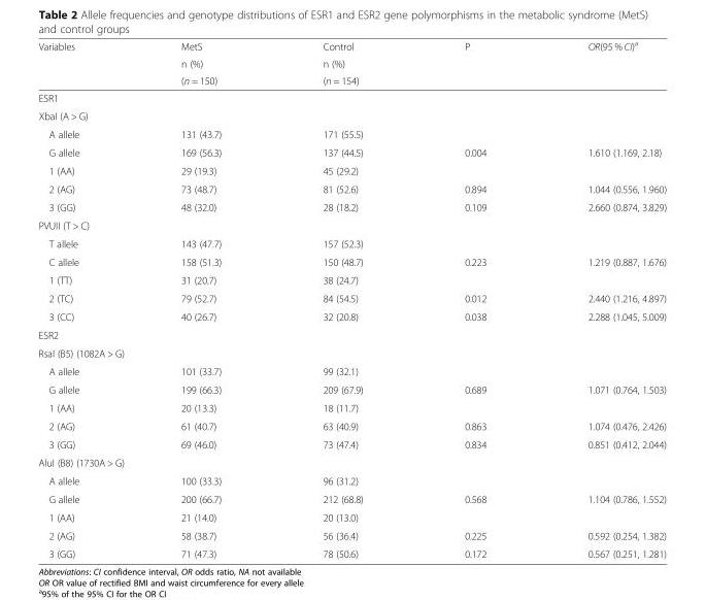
<table><thead><tr><td rowspan="3">Variables</td><td rowspan="3">MetS n (%) (n = 150)</td><td rowspan="3">Control n (%) (n = 154)</td><td rowspan="3">P</td><td rowspan="3">OR(95 % CI)<sup>a</sup></td></tr><tr></tr><tr></tr></thead><tbody><tr><td colspan="5">ESR1</td></tr><tr><td colspan="5">XbaI (A &gt; G)</td></tr><tr><td>A allele</td><td>131 (43.7)</td><td>171 (55.5)</td><td></td><td></td></tr><tr><td>G allele</td><td>169 (56.3)</td><td>137 (44.5)</td><td>0.004</td><td>1.610 (1.169, 2.18)</td></tr><tr><td>1 (AA)</td><td>29 (19.3)</td><td>45 (29.2)</td><td></td><td></td></tr><tr><td>2 (AG)</td><td>73 (48.7)</td><td>81 (52.6)</td><td>0.894</td><td>1.044 (0.556, 1.960)</td></tr><tr><td>3 (GG)</td><td>48 (32.0)</td><td>28 (18.2)</td><td>0.109</td><td>2.660 (0.874, 3.829)</td></tr><tr><td colspan="5">PVUII (T &gt; C)</td></tr><tr><td>T allele</td><td>143 (47.7)</td><td>157 (52.3)</td><td></td><td></td></tr><tr><td>C allele</td><td>158 (51.3)</td><td>150 (48.7)</td><td>0.223</td><td>1.219 (0.887, 1.676)</td></tr><tr><td>1 (TT)</td><td>31 (20.7)</td><td>38 (24.7)</td><td></td><td></td></tr><tr><td>2 (TC)</td><td>79 (52.7)</td><td>84 (54.5)</td><td>0.012</td><td>2.440 (1.216, 4.897)</td></tr><tr><td>3 (CC)</td><td>40 (26.7)</td><td>32 (20.8)</td><td>0.038</td><td>2.288 (1.045, 5.009)</td></tr><tr><td colspan="5">ESR2</td></tr><tr><td colspan="5">RsaI (B5) (1082A &gt; G)</td></tr><tr><td>A allele</td><td>101 (33.7)</td><td>99 (32.1)</td><td></td><td></td></tr><tr><td>G allele</td><td>199 (66.3)</td><td>209 (67.9)</td><td>0.689</td><td>1.071 (0.764, 1.503)</td></tr><tr><td>1 (AA)</td><td>20 (13.3)</td><td>18 (11.7)</td><td></td><td></td></tr><tr><td>2 (AG)</td><td>61 (40.7)</td><td>63 (40.9)</td><td>0.863</td><td>1.074 (0.476, 2.426)</td></tr><tr><td>3 (GG)</td><td>69 (46.0)</td><td>73 (47.4)</td><td>0.834</td><td>0.851 (0.412, 2.044)</td></tr><tr><td colspan="5">AluI (B8) (1730A &gt; G)</td></tr><tr><td>A allele</td><td>100 (33.3)</td><td>96 (31.2)</td><td></td><td></td></tr><tr><td>G allele</td><td>200 (66.7)</td><td>212 (68.8)</td><td>0.568</td><td>1.104 (0.786, 1.552)</td></tr><tr><td>1 (AA)</td><td>21 (14.0)</td><td>20 (13.0)</td><td></td><td></td></tr><tr><td>2 (AG)</td><td>58 (38.7)</td><td>56 (36.4)</td><td>0.225</td><td>0.592 (0.254, 1.382)</td></tr><tr><td>3 (GG)</td><td>71 (47.3)</td><td>78 (50.6)</td><td>0.172</td><td>0.567 (0.251, 1.281)</td></tr></tbody></table>